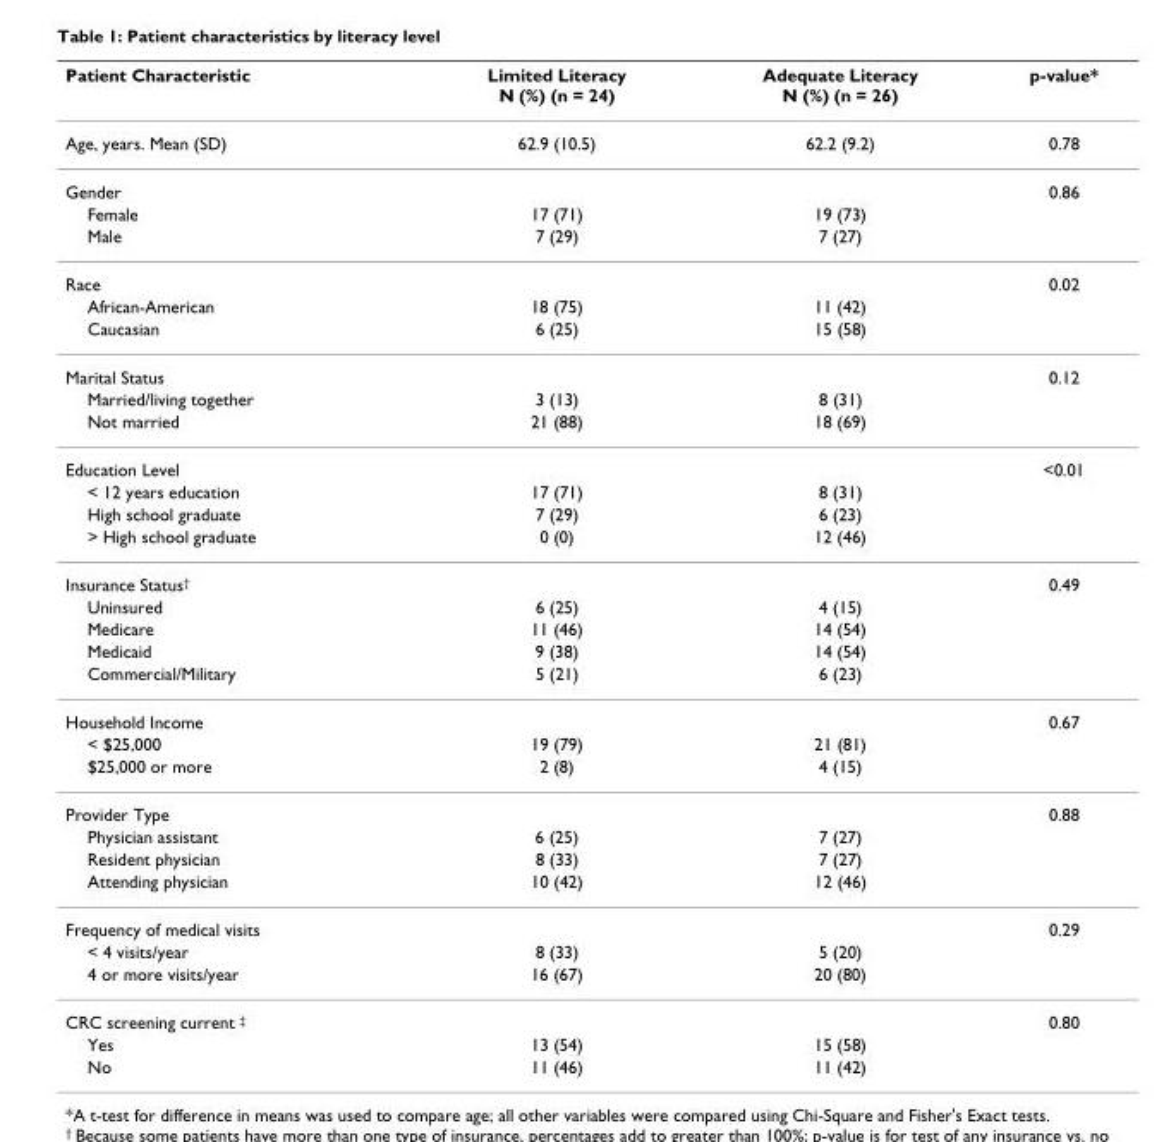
<table><thead><tr><td>Patient Characteristic</td><td>Limited Literacy N (%) (n = 24)</td><td>Adequate Literacy N (%) (n = 26)</td><td>p-value*</td></tr></thead><tbody><tr><td>Age, years. Mean (SD)</td><td>62.9 (10.5)</td><td>62.2 (9.2)</td><td>0.78</td></tr><tr><td>Gender</td><td></td><td></td><td>0.86</td></tr><tr><td>Female</td><td>17 (71)</td><td>19 (73)</td><td></td></tr><tr><td>Male</td><td>7 (29)</td><td>7 (27)</td><td></td></tr><tr><td>Race</td><td></td><td></td><td>0.02</td></tr><tr><td>African-American</td><td>18 (75)</td><td>11 (42)</td><td></td></tr><tr><td>Caucasian</td><td>6 (25)</td><td>15 (58)</td><td></td></tr><tr><td>Marital Status</td><td></td><td></td><td>0.12</td></tr><tr><td>Married/living together</td><td>3 (13)</td><td>8 (31)</td><td></td></tr><tr><td>Not married</td><td>21 (88)</td><td>18 (69)</td><td></td></tr><tr><td>Education Level</td><td></td><td></td><td>&lt;0.01</td></tr><tr><td>&lt; 12 years education</td><td>17 (71)</td><td>8 (31)</td><td></td></tr><tr><td>High school graduate</td><td>7 (29)</td><td>6 (23)</td><td></td></tr><tr><td>&gt; High school graduate</td><td>0 (0)</td><td>12 (46)</td><td></td></tr><tr><td>Insurance Status<sup>†</sup></td><td></td><td></td><td>0.49</td></tr><tr><td>Uninsured</td><td>6 (25)</td><td>4 (15)</td><td></td></tr><tr><td>Medicare</td><td>11 (46)</td><td>14 (54)</td><td></td></tr><tr><td>Medicaid</td><td>9 (38)</td><td>14 (54)</td><td></td></tr><tr><td>Commercial/Military</td><td>5 (21)</td><td>6 (23)</td><td></td></tr><tr><td>Household Income</td><td></td><td></td><td>0.67</td></tr><tr><td>&lt; $25,000</td><td>19 (79)</td><td>21 (81)</td><td></td></tr><tr><td>$25,000 or more</td><td>2 (8)</td><td>4 (15)</td><td></td></tr><tr><td>Provider Type</td><td></td><td></td><td>0.88</td></tr><tr><td>Physician assistant</td><td>6 (25)</td><td>7 (27)</td><td></td></tr><tr><td>Resident physician</td><td>8 (33)</td><td>7 (27)</td><td></td></tr><tr><td>Attending physician</td><td>10 (42)</td><td>12 (46)</td><td></td></tr><tr><td>Frequency of medical visits</td><td></td><td></td><td>0.29</td></tr><tr><td>&lt; 4 visits/year</td><td>8 (33)</td><td>5 (20)</td><td></td></tr><tr><td>4 or more visits/year</td><td>16 (67)</td><td>20 (80)</td><td></td></tr><tr><td>CRC screening current <sup>‡</sup></td><td></td><td></td><td>0.80</td></tr><tr><td>Yes</td><td>13 (54)</td><td>15 (58)</td><td></td></tr><tr><td>No</td><td>11 (46)</td><td>11 (42)</td><td></td></tr></tbody></table>